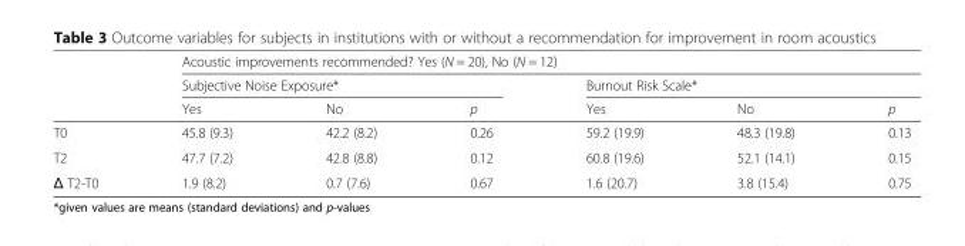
<table><thead><tr><td rowspan="3"></td><td colspan="6">Acoustic improvements recommended? Yes (N = 20), No (N = 12)</td></tr><tr><td colspan="3">Subjective Noise Exposure*</td><td colspan="3">Burnout Risk Scale*</td></tr><tr><td>Yes</td><td>No</td><td>p</td><td>Yes</td><td>No</td><td>p</td></tr></thead><tbody><tr><td>T0</td><td>45.8 (9.3)</td><td>42.2 (8.2)</td><td>0.26</td><td>59.2 (19.9)</td><td>48.3 (19.8)</td><td>0.13</td></tr><tr><td>T2</td><td>47.7 (7.2)</td><td>42.8 (8.8)</td><td>0.12</td><td>60.8 (19.6)</td><td>52.1 (14.1)</td><td>0.15</td></tr><tr><td>Δ T2-T0</td><td>1.9 (8.2)</td><td>0.7 (7.6)</td><td>0.67</td><td>1.6 (20.7)</td><td>3.8 (15.4)</td><td>0.75</td></tr></tbody></table>